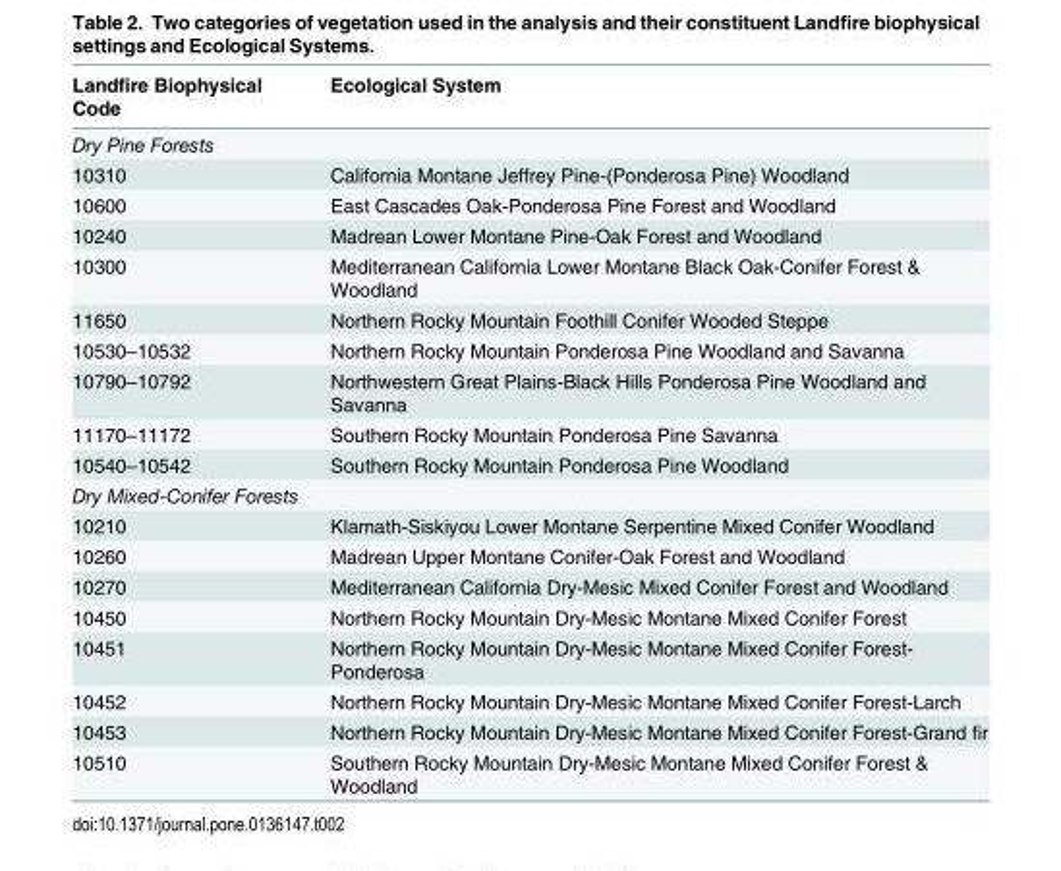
<table><thead><tr><td>Landfire Biophysical Code</td><td>Ecological System</td></tr></thead><tbody><tr><td colspan="2">Dry Pine Forests</td></tr><tr><td>10310</td><td>California Montane Jeffrey Pine-(Ponderosa Pine) Woodland</td></tr><tr><td>10600</td><td>East Cascades Oak-Ponderosa Pine Forest and Woodland</td></tr><tr><td>10240</td><td>Madrean Lower Montane Pine-Oak Forest and Woodland</td></tr><tr><td>10300</td><td>Mediterranean California Lower Montane Black Oak-Conifer Forest &amp; Woodland</td></tr><tr><td>11650</td><td>Northern Rocky Mountain Foothill Conifer Wooded Steppe</td></tr><tr><td>10530–10532</td><td>Northern Rocky Mountain Ponderosa Pine Woodland and Savanna</td></tr><tr><td>10790–10792</td><td>Northwestern Great Plains-Black Hills Ponderosa Pine Woodland and Savanna</td></tr><tr><td>11170–11172</td><td>Southern Rocky Mountain Ponderosa Pine Savanna</td></tr><tr><td>10540–10542</td><td>Southern Rocky Mountain Ponderosa Pine Woodland</td></tr><tr><td colspan="2">Dry Mixed-Conifer Forests</td></tr><tr><td>10210</td><td>Klamath-Siskiyou Lower Montane Serpentine Mixed Conifer Woodland</td></tr><tr><td>10260</td><td>Madrean Upper Montane Conifer-Oak Forest and Woodland</td></tr><tr><td>10270</td><td>Mediterranean California Dry-Mesic Mixed Conifer Forest and Woodland</td></tr><tr><td>10450</td><td>Northern Rocky Mountain Dry-Mesic Montane Mixed Conifer Forest</td></tr><tr><td>10451</td><td>Northern Rocky Mountain Dry-Mesic Montane Mixed Conifer Forest- Ponderosa</td></tr><tr><td>10452</td><td>Northern Rocky Mountain Dry-Mesic Montane Mixed Conifer Forest-Larch</td></tr><tr><td>10453</td><td>Northern Rocky Mountain Dry-Mesic Montane Mixed Conifer Forest-Grand fir</td></tr><tr><td>10510</td><td>Southern Rocky Mountain Dry-Mesic Montane Mixed Conifer Forest &amp; Woodland</td></tr></tbody></table>